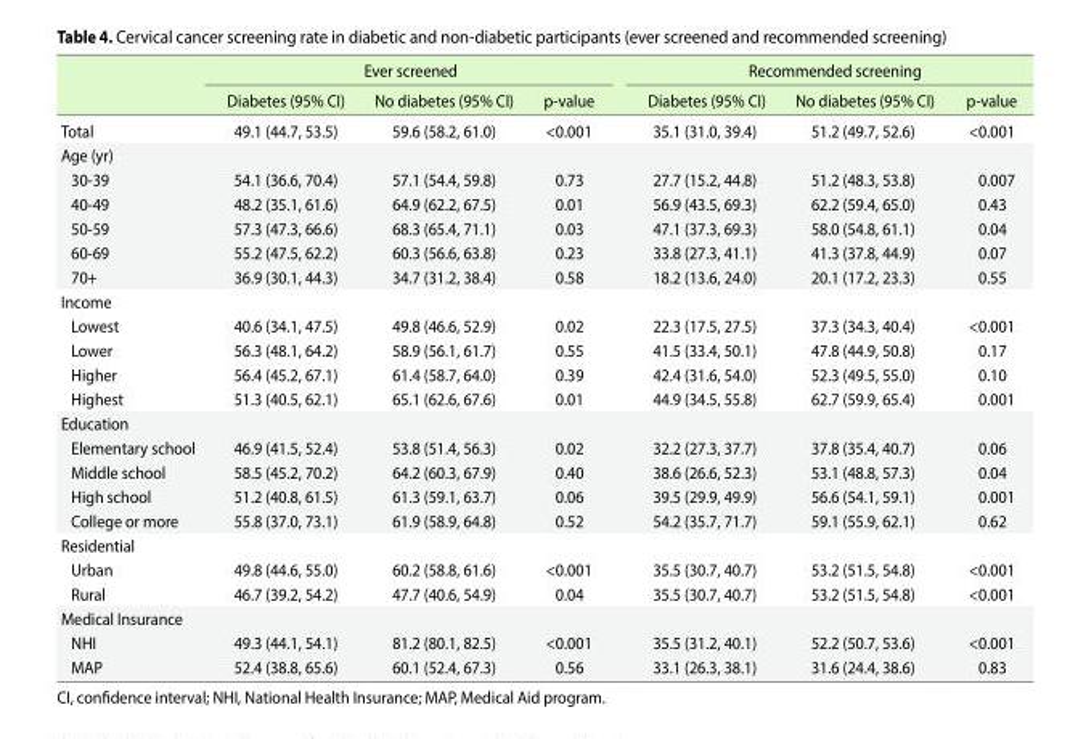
<table><thead><tr><td rowspan="2"></td><td colspan="3">Ever screened</td><td colspan="3">Recommended screening</td></tr><tr><td>Diabetes (95% CI)</td><td>No diabetes (95% CI)</td><td>p-value</td><td>Diabetes (95% CI)</td><td>No diabetes (95% CI)</td><td>p-value</td></tr></thead><tbody><tr><td>Total</td><td>49.1 (44.7, 53.5)</td><td>59.6 (58.2, 61.0)</td><td>&lt;0.001</td><td>35.1 (31.0, 39.4)</td><td>51.2 (49.7, 52.6)</td><td>&lt;0.001</td></tr><tr><td colspan="7">Age (yr)</td></tr><tr><td>30-39</td><td>54.1 (36.6, 70.4)</td><td>57.1 (54.4, 59.8)</td><td>0.73</td><td>27.7 (15.2, 44.8)</td><td>51.2 (48.3, 53.8)</td><td>0.007</td></tr><tr><td>40-49</td><td>48.2 (35.1, 61.6)</td><td>64.9 (62.2, 67.5)</td><td>0.01</td><td>56.9 (43.5, 69.3)</td><td>62.2 (59.4, 65.0)</td><td>0.43</td></tr><tr><td>50-59</td><td>57.3 (47.3, 66.6)</td><td>68.3 (65.4, 71.1)</td><td>0.03</td><td>47.1 (37.3, 69.3)</td><td>58.0 (54.8, 61.1)</td><td>0.04</td></tr><tr><td>60-69</td><td>55.2 (47.5, 62.2)</td><td>60.3 (56.6, 63.8)</td><td>0.23</td><td>33.8 (27.3, 41.1)</td><td>41.3 (37.8, 44.9)</td><td>0.07</td></tr><tr><td>70+</td><td>36.9 (30.1, 44.3)</td><td>34.7 (31.2, 38.4)</td><td>0.58</td><td>18.2 (13.6, 24.0)</td><td>20.1 (17.2, 23.3)</td><td>0.55</td></tr><tr><td colspan="7">Income</td></tr><tr><td>Lowest</td><td>40.6 (34.1, 47.5)</td><td>49.8 (46.6, 52.9)</td><td>0.02</td><td>22.3 (17.5, 27.5)</td><td>37.3 (34.3, 40.4)</td><td>&lt;0.001</td></tr><tr><td>Lower</td><td>56.3 (48.1, 64.2)</td><td>58.9 (56.1, 61.7)</td><td>0.55</td><td>41.5 (33.4, 50.1)</td><td>47.8 (44.9, 50.8)</td><td>0.17</td></tr><tr><td>Higher</td><td>56.4 (45.2, 67.1)</td><td>61.4 (58.7, 64.0)</td><td>0.39</td><td>42.4 (31.6, 54.0)</td><td>52.3 (49.5, 55.0)</td><td>0.10</td></tr><tr><td>Highest</td><td>51.3 (40.5, 62.1)</td><td>65.1 (62.6, 67.6)</td><td>0.01</td><td>44.9 (34.5, 55.8)</td><td>62.7 (59.9, 65.4)</td><td>0.001</td></tr><tr><td colspan="7">Education</td></tr><tr><td>Elementary school</td><td>46.9 (41.5, 52.4)</td><td>53.8 (51.4, 56.3)</td><td>0.02</td><td>32.2 (27.3, 37.7)</td><td>37.8 (35.4, 40.7)</td><td>0.06</td></tr><tr><td>Middle school</td><td>58.5 (45.2, 70.2)</td><td>64.2 (60.3, 67.9)</td><td>0.40</td><td>38.6 (26.6, 52.3)</td><td>53.1 (48.8, 57.3)</td><td>0.04</td></tr><tr><td>High school</td><td>51.2 (40.8, 61.5)</td><td>61.3 (59.1, 63.7)</td><td>0.06</td><td>39.5 (29.9, 49.9)</td><td>56.6 (54.1, 59.1)</td><td>0.001</td></tr><tr><td>College or more</td><td>55.8 (37.0, 73.1)</td><td>61.9 (58.9, 64.8)</td><td>0.52</td><td>54.2 (35.7, 71.7)</td><td>59.1 (55.9, 62.1)</td><td>0.62</td></tr><tr><td colspan="7">Residential</td></tr><tr><td>Urban</td><td>49.8 (44.6, 55.0)</td><td>60.2 (58.8, 61.6)</td><td>&lt;0.001</td><td>35.5 (30.7, 40.7)</td><td>53.2 (51.5, 54.8)</td><td>&lt;0.001</td></tr><tr><td>Rural</td><td>46.7 (39.2, 54.2)</td><td>47.7 (40.6, 54.9)</td><td>0.04</td><td>35.5 (30.7, 40.7)</td><td>53.2 (51.5, 54.8)</td><td>&lt;0.001</td></tr><tr><td colspan="7">Medical Insurance</td></tr><tr><td>NHI</td><td>49.3 (44.1, 54.1)</td><td>81.2 (80.1, 82.5)</td><td>&lt;0.001</td><td>35.5 (31.2, 40.1)</td><td>52.2 (50.7, 53.6)</td><td>&lt;0.001</td></tr><tr><td>MAP</td><td>52.4 (38.8, 65.6)</td><td>60.1 (52.4, 67.3)</td><td>0.56</td><td>33.1 (26.3, 38.1)</td><td>31.6 (24.4, 38.6)</td><td>0.83</td></tr></tbody></table>